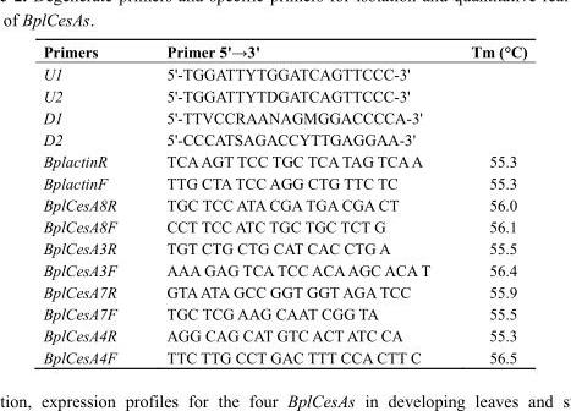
<table><thead><tr><td>Primers</td><td>Primer 5&#x27;→3&#x27;</td><td>Tm (°C)</td></tr></thead><tbody><tr><td>U1</td><td>5&#x27;-TGGATTYTGGATCAGTTCCC-3&#x27;</td><td></td></tr><tr><td>U2</td><td>5&#x27;-TGGATTYTDGATCAGTTCCC-3&#x27;</td><td></td></tr><tr><td>D1</td><td>5&#x27;-TTVCCRAANAGMGGACCCCA-3&#x27;</td><td></td></tr><tr><td>D2</td><td>5&#x27;-CCCATSAGACCYTTGAGGAA-3&#x27;</td><td></td></tr><tr><td>BplactinR</td><td>TCA AGT TCC TGC TCA TAG TCA A</td><td>55.3</td></tr><tr><td>BplactinF</td><td>TTG CTA TCC AGG CTG TTC TC</td><td>55.3</td></tr><tr><td>BplCesA8R</td><td>TGC TCC ATA CGA TGA CGA CT</td><td>56.0</td></tr><tr><td>BplCesA8F</td><td>CCT TCC ATC TGC TGC TCT G</td><td>56.1</td></tr><tr><td>BplCesA3R</td><td>TGT CTG CTG CAT CAC CTG A</td><td>55.5</td></tr><tr><td>BplCesA3F</td><td>AAA GAG TCA TCC ACA AGC ACA T</td><td>56.4</td></tr><tr><td>BplCesA7R</td><td>GTA ATA GCC GGT GGT AGA TCC</td><td>55.9</td></tr><tr><td>BplCesA7F</td><td>TGC TCG AAG CAAT CGG TA</td><td>55.5</td></tr><tr><td>BplCesA4R</td><td>AGG CAG CAT GTC ACT ATC CA</td><td>55.3</td></tr><tr><td>BplCesA4F</td><td>TTC TTG CCT GAC TTT CCA CTT C</td><td>56.5</td></tr></tbody></table>